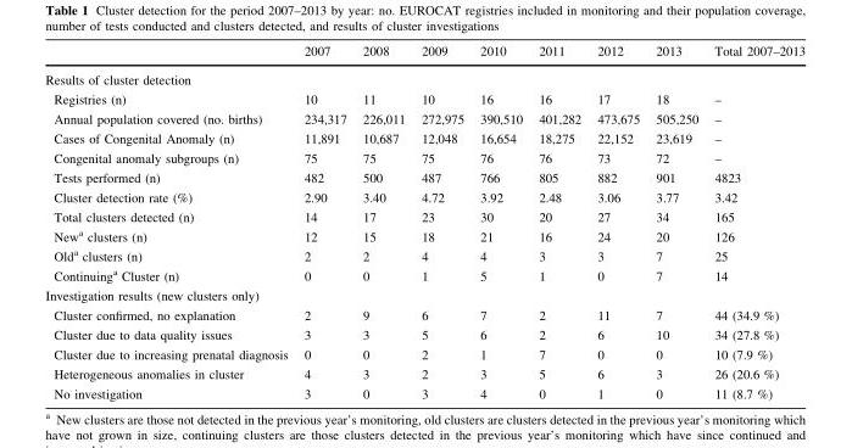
<table><thead><tr><td></td><td>2007</td><td>2008</td><td>2009</td><td>2010</td><td>2011</td><td>2012</td><td>2013</td><td>Total 2007–2013</td></tr></thead><tbody><tr><td colspan="9">Results of cluster detection</td></tr><tr><td>Registries (n)</td><td>10</td><td>11</td><td>10</td><td>16</td><td>16</td><td>17</td><td>18</td><td>–</td></tr><tr><td>Annual population covered (no. births)</td><td>234,317</td><td>226,011</td><td>272,975</td><td>390,510</td><td>401,282</td><td>473,675</td><td>505,250</td><td>–</td></tr><tr><td>Cases of Congenital Anomaly (n)</td><td>11,891</td><td>10,687</td><td>12,048</td><td>16,654</td><td>18,275</td><td>22,152</td><td>23,619</td><td>–</td></tr><tr><td>Congenital anomaly subgroups (n)</td><td>75</td><td>75</td><td>75</td><td>76</td><td>76</td><td>73</td><td>72</td><td>–</td></tr><tr><td>Tests performed (n)</td><td>482</td><td>500</td><td>487</td><td>766</td><td>805</td><td>882</td><td>901</td><td>4823</td></tr><tr><td>Cluster detection rate (%)</td><td>2.90</td><td>3.40</td><td>4.72</td><td>3.92</td><td>2.48</td><td>3.06</td><td>3.77</td><td>3.42</td></tr><tr><td>Total clusters detected (n)</td><td>14</td><td>17</td><td>23</td><td>30</td><td>20</td><td>27</td><td>34</td><td>165</td></tr><tr><td>New<sup>a</sup> clusters (n)</td><td>12</td><td>15</td><td>18</td><td>21</td><td>16</td><td>24</td><td>20</td><td>126</td></tr><tr><td>Old<sup>a</sup> clusters (n)</td><td>2</td><td>2</td><td>4</td><td>4</td><td>3</td><td>3</td><td>7</td><td>25</td></tr><tr><td>Continuing<sup>a</sup> Cluster (n)</td><td>0</td><td>0</td><td>1</td><td>5</td><td>1</td><td>0</td><td>7</td><td>14</td></tr><tr><td colspan="9">Investigation results (new clusters only)</td></tr><tr><td>Cluster confirmed, no explanation</td><td>2</td><td>9</td><td>6</td><td>7</td><td>2</td><td>11</td><td>7</td><td>44 (34.9 %)</td></tr><tr><td>Cluster due to data quality issues</td><td>3</td><td>3</td><td>5</td><td>6</td><td>2</td><td>6</td><td>10</td><td>34 (27.8 %)</td></tr><tr><td>Cluster due to increasing prenatal diagnosis</td><td>0</td><td>0</td><td>2</td><td>1</td><td>7</td><td>0</td><td>0</td><td>10 (7.9 %)</td></tr><tr><td>Heterogeneous anomalies in cluster</td><td>4</td><td>3</td><td>2</td><td>3</td><td>5</td><td>6</td><td>3</td><td>26 (20.6 %)</td></tr><tr><td>No investigation</td><td>3</td><td>0</td><td>3</td><td>4</td><td>0</td><td>1</td><td>0</td><td>11 (8.7 %)</td></tr></tbody></table>